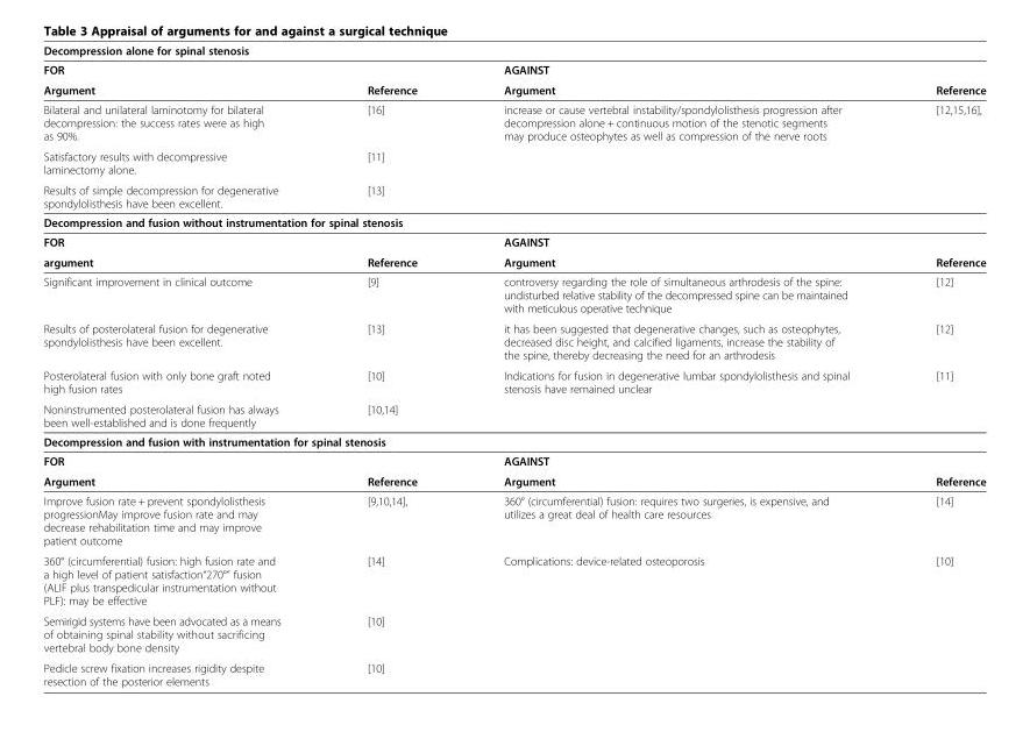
<table><thead><tr><td colspan="4">Decompression alone for spinal stenosis</td></tr><tr><td colspan="2">FOR</td><td colspan="2">AGAINST</td></tr><tr><td>Argument</td><td>Reference</td><td>Argument</td><td>Reference</td></tr></thead><tbody><tr><td>Bilateral and unilateral laminotomy for bilateral decompression: the success rates were as high as 90%.</td><td>[16]</td><td>increase or cause vertebral instability/spondylolisthesis progression after decompression alone + continuous motion of the stenotic segments may produce osteophytes as well as compression of the nerve roots</td><td>[12,15,16],</td></tr><tr><td>Satisfactory results with decompressive laminectomy alone.</td><td>[11]</td><td></td><td></td></tr><tr><td>Results of simple decompression for degenerative spondylolisthesis have been excellent.</td><td>[13]</td><td></td><td></td></tr><tr><td colspan="4">Decompression and fusion without instrumentation for spinal stenosis</td></tr><tr><td colspan="2">FOR</td><td colspan="2">AGAINST</td></tr><tr><td>argument</td><td>Reference</td><td>Argument</td><td>Reference</td></tr><tr><td>Significant improvement in clinical outcome</td><td>[9]</td><td>controversy regarding the role of simultaneous arthrodesis of the spine: undisturbed relative stability of the decompressed spine can be maintained with meticulous operative technique</td><td>[12]</td></tr><tr><td>Results of posterolateral fusion for degenerative spondylolisthesis have been excellent.</td><td>[13]</td><td>it has been suggested that degenerative changes, such as osteophytes, decreased disc height, and calcified ligaments, increase the stability of the spine, thereby decreasing the need for an arthrodesis</td><td>[12]</td></tr><tr><td>Posterolateral fusion with only bone graft noted high fusion rates</td><td>[10]</td><td>Indications for fusion in degenerative lumbar spondylolisthesis and spinal stenosis have remained unclear</td><td>[11]</td></tr><tr><td>Noninstrumented posterolateral fusion has always been well-established and is done frequently</td><td>[10,14]</td><td></td><td></td></tr><tr><td colspan="4">Decompression and fusion with instrumentation for spinal stenosis</td></tr><tr><td colspan="2">FOR</td><td colspan="2">AGAINST</td></tr><tr><td>Argument</td><td>Reference</td><td>Argument</td><td>Reference</td></tr><tr><td>Improve fusion rate + prevent spondylolisthesis progressionMay improve fusion rate and may decrease rehabilitation time and may improve patient outcome</td><td>[9,10,14],</td><td>360° (circumferential) fusion: requires two surgeries, is expensive, and utilizes a great deal of health care resources</td><td>[14]</td></tr><tr><td>360° (circumferential) fusion: high fusion rate and a high level of patient satisfaction“270°” fusion (ALIF plus transpedicular instrumentation without PLF): may be effective</td><td>[14]</td><td>Complications: device-related osteoporosis</td><td>[10]</td></tr><tr><td>Semirigid systems have been advocated as a means of obtaining spinal stability without sacrificing vertebral body bone density</td><td>[10]</td><td></td><td></td></tr><tr><td>Pedicle screw fixation increases rigidity despite resection of the posterior elements</td><td>[10]</td><td></td><td></td></tr></tbody></table>